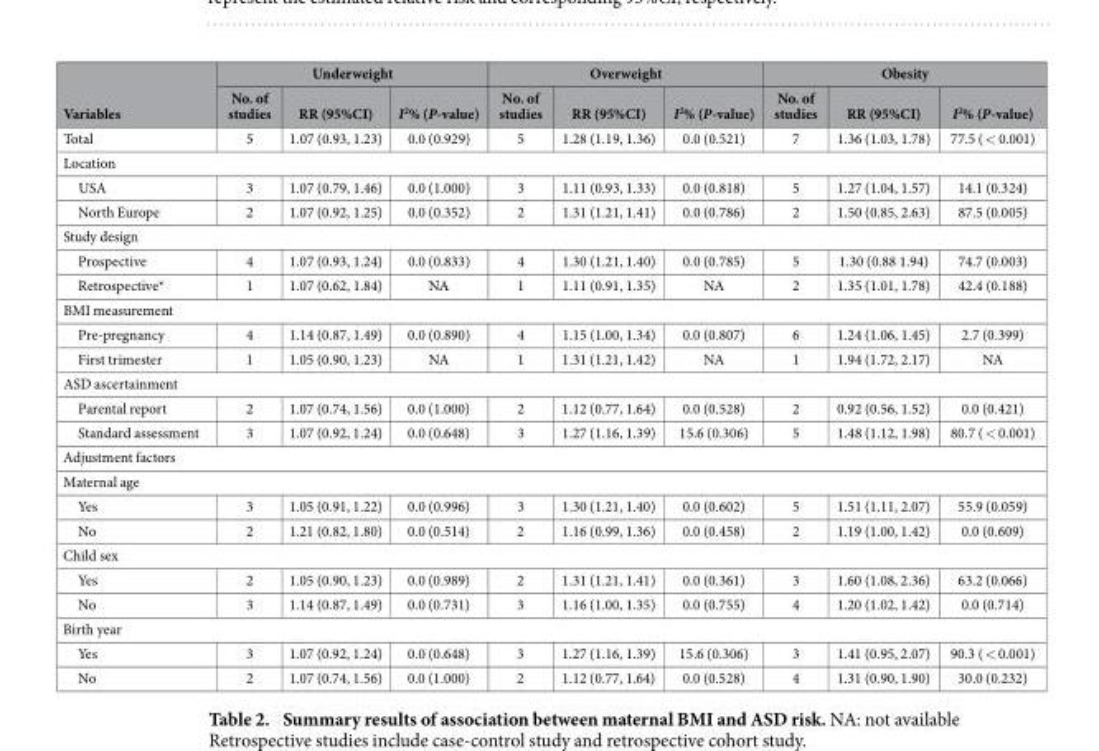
<table><thead><tr><td rowspan="2">Variables</td><td colspan="3">Underweight</td><td colspan="3">Overweight</td><td colspan="3">Obesity</td></tr><tr><td>No. of studies</td><td>RR (95%CI)</td><td>I<sup>2</sup>% (P-value)</td><td>No. of studies</td><td>RR (95%CI)</td><td>I<sup>2</sup>% (P-value)</td><td>No. of studies</td><td>RR (95%CI)</td><td>I<sup>2</sup>% (P-value)</td></tr></thead><tbody><tr><td>Total</td><td>5</td><td>1.07 (0.93, 1.23)</td><td>0.0 (0.929)</td><td>5</td><td>1.28 (1.19, 1.36)</td><td>0.0 (0.521)</td><td>7</td><td>1.36 (1.03, 1.78)</td><td>77.5 ( &lt; 0.001)</td></tr><tr><td colspan="10">Location</td></tr><tr><td>USA</td><td>3</td><td>1.07 (0.79, 1.46)</td><td>0.0 (1.000)</td><td>3</td><td>1.11 (0.93, 1.33)</td><td>0.0 (0.818)</td><td>5</td><td>1.27 (1.04, 1.57)</td><td>14.1 (0.324)</td></tr><tr><td>North Europe</td><td>2</td><td>1.07 (0.92, 1.25)</td><td>0.0 (0.352)</td><td>2</td><td>1.31 (1.21, 1.41)</td><td>0.0 (0.786)</td><td>2</td><td>1.50 (0.85, 2.63)</td><td>87.5 (0.005)</td></tr><tr><td colspan="10">Study design</td></tr><tr><td>Prospective</td><td>4</td><td>1.07 (0.93, 1.24)</td><td>0.0 (0.833)</td><td>4</td><td>1.30 (1.21, 1.40)</td><td>0.0 (0.785)</td><td>5</td><td>1.30 (0.88 1.94)</td><td>74.7 (0.003)</td></tr><tr><td>Retrospective*</td><td>1</td><td>1.07 (0.62, 1.84)</td><td>NA</td><td>1</td><td>1.11 (0.91, 1.35)</td><td>NA</td><td>2</td><td>1.35 (1.01, 1.78)</td><td>42.4 (0.188)</td></tr><tr><td colspan="10">BMI measurement</td></tr><tr><td>Pre-pregnancy</td><td>4</td><td>1.14 (0.87, 1.49)</td><td>0.0 (0.890)</td><td>4</td><td>1.15 (1.00, 1.34)</td><td>0.0 (0.807)</td><td>6</td><td>1.24 (1.06, 1.45)</td><td>2.7 (0.399)</td></tr><tr><td>First trimester</td><td>1</td><td>1.05 (0.90, 1.23)</td><td>NA</td><td>1</td><td>1.31 (1.21, 1.42)</td><td>NA</td><td>1</td><td>1.94 (1.72, 2.17)</td><td>NA</td></tr><tr><td colspan="10">ASD ascertainment</td></tr><tr><td>Parental report</td><td>2</td><td>1.07 (0.74, 1.56)</td><td>0.0 (1.000)</td><td>2</td><td>1.12 (0.77, 1.64)</td><td>0.0 (0.528)</td><td>2</td><td>0.92 (0.56, 1.52)</td><td>0.0 (0.421)</td></tr><tr><td>Standard assessment</td><td>3</td><td>1.07 (0.92, 1.24)</td><td>0.0 (0.648)</td><td>3</td><td>1.27 (1.16, 1.39)</td><td>15.6 (0.306)</td><td>5</td><td>1.48 (1.12, 1.98)</td><td>80.7 ( &lt; 0.001)</td></tr><tr><td colspan="10">Adjustment factors</td></tr><tr><td colspan="10">Maternal age</td></tr><tr><td>Yes</td><td>3</td><td>1.05 (0.91, 1.22)</td><td>0.0 (0.996)</td><td>3</td><td>1.30 (1.21, 1.40)</td><td>0.0 (0.602)</td><td>5</td><td>1.51 (1.11, 2.07)</td><td>55.9 (0.059)</td></tr><tr><td>No</td><td>2</td><td>1.21 (0.82, 1.80)</td><td>0.0 (0.514)</td><td>2</td><td>1.16 (0.99, 1.36)</td><td>0.0 (0.458)</td><td>2</td><td>1.19 (1.00, 1.42)</td><td>0.0 (0.609)</td></tr><tr><td colspan="10">Child sex</td></tr><tr><td>Yes</td><td>2</td><td>1.05 (0.90, 1.23)</td><td>0.0 (0.989)</td><td>2</td><td>1.31 (1.21, 1.41)</td><td>0.0 (0.361)</td><td>3</td><td>1.60 (1.08, 2.36)</td><td>63.2 (0.066)</td></tr><tr><td>No</td><td>3</td><td>1.14 (0.87, 1.49)</td><td>0.0 (0.731)</td><td>3</td><td>1.16 (1.00, 1.35)</td><td>0.0 (0.755)</td><td>4</td><td>1.20 (1.02, 1.42)</td><td>0.0 (0.714)</td></tr><tr><td colspan="10">Birth year</td></tr><tr><td>Yes</td><td>3</td><td>1.07 (0.92, 1.24)</td><td>0.0 (0.648)</td><td>3</td><td>1.27 (1.16, 1.39)</td><td>15.6 (0.306)</td><td>3</td><td>1.41 (0.95, 2.07)</td><td>90.3 ( &lt; 0.001)</td></tr><tr><td>No</td><td>2</td><td>1.07 (0.74, 1.56)</td><td>0.0 (1.000)</td><td>2</td><td>1.12 (0.77, 1.64)</td><td>0.0 (0.528)</td><td>4</td><td>1.31 (0.90, 1.90)</td><td>30.0 (0.232)</td></tr></tbody></table>